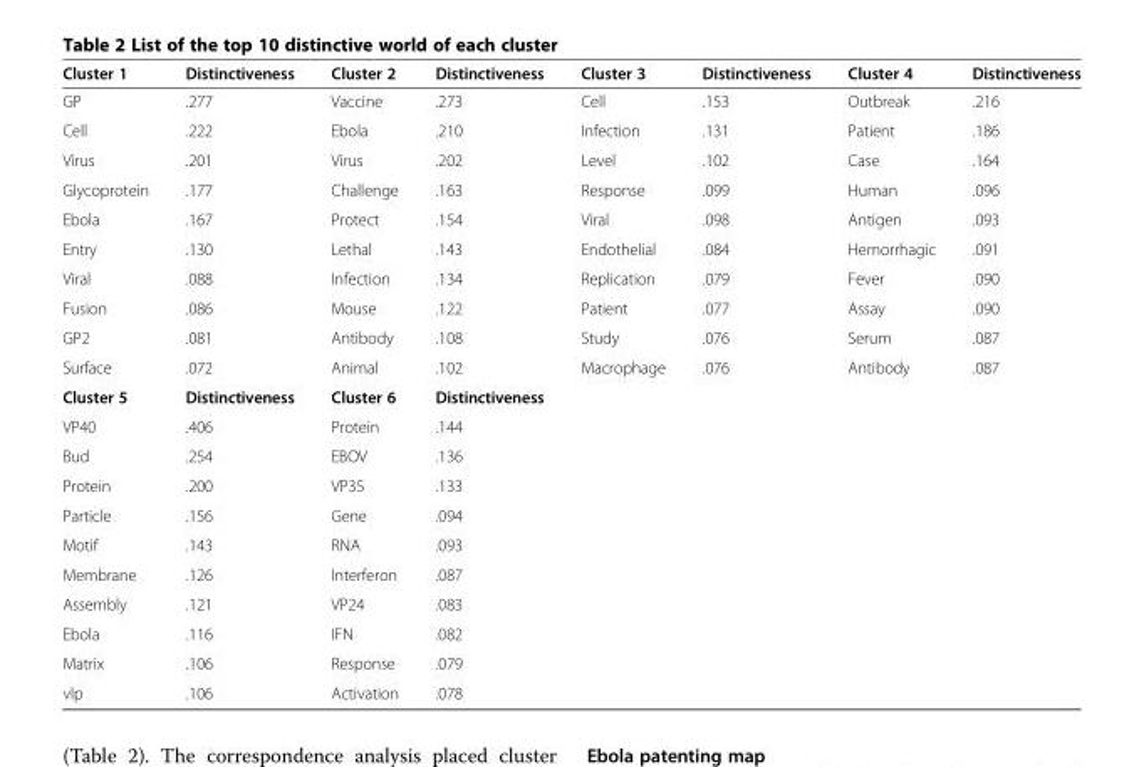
<table><thead><tr><td>Cluster 1</td><td>Distinctiveness</td><td>Cluster 2</td><td>Distinctiveness</td><td>Cluster 3</td><td>Distinctiveness</td><td>Cluster 4</td><td>Distinctiveness</td></tr></thead><tbody><tr><td>GP</td><td>.277</td><td>Vaccine</td><td>.273</td><td>Cell</td><td>.153</td><td>Outbreak</td><td>.216</td></tr><tr><td>Cell</td><td>.222</td><td>Ebola</td><td>.210</td><td>Infection</td><td>.131</td><td>Patient</td><td>.186</td></tr><tr><td>Virus</td><td>.201</td><td>Virus</td><td>.202</td><td>Level</td><td>.102</td><td>Case</td><td>.164</td></tr><tr><td>Glycoprotein</td><td>.177</td><td>Challenge</td><td>.163</td><td>Response</td><td>.099</td><td>Human</td><td>.096</td></tr><tr><td>Ebola</td><td>.167</td><td>Protect</td><td>.154</td><td>Viral</td><td>.098</td><td>Antigen</td><td>.093</td></tr><tr><td>Entry</td><td>.130</td><td>Lethal</td><td>.143</td><td>Endothelial</td><td>.084</td><td>Hemorrhagic</td><td>.091</td></tr><tr><td>Viral</td><td>.088</td><td>Infection</td><td>.134</td><td>Replication</td><td>.079</td><td>Fever</td><td>.090</td></tr><tr><td>Fusion</td><td>.086</td><td>Mouse</td><td>.122</td><td>Patient</td><td>.077</td><td>Assay</td><td>.090</td></tr><tr><td>GP2</td><td>.081</td><td>Antibody</td><td>.108</td><td>Study</td><td>.076</td><td>Serum</td><td>.087</td></tr><tr><td>Surface</td><td>.072</td><td>Animal</td><td>.102</td><td>Macrophage</td><td>.076</td><td>Antibody</td><td>.087</td></tr><tr><td>Cluster 5</td><td>Distinctiveness</td><td>Cluster 6</td><td>Distinctiveness</td><td></td><td></td><td></td><td></td></tr><tr><td>VP40</td><td>.406</td><td>Protein</td><td>.144</td><td></td><td></td><td></td><td></td></tr><tr><td>Bud</td><td>.254</td><td>EBOV</td><td>.136</td><td></td><td></td><td></td><td></td></tr><tr><td>Protein</td><td>.200</td><td>VP35</td><td>.133</td><td></td><td></td><td></td><td></td></tr><tr><td>Particle</td><td>.156</td><td>Gene</td><td>.094</td><td></td><td></td><td></td><td></td></tr><tr><td>Motif</td><td>.143</td><td>RNA</td><td>.093</td><td></td><td></td><td></td><td></td></tr><tr><td>Membrane</td><td>.126</td><td>Interferon</td><td>.087</td><td></td><td></td><td></td><td></td></tr><tr><td>Assembly</td><td>.121</td><td>VP24</td><td>.083</td><td></td><td></td><td></td><td></td></tr><tr><td>Ebola</td><td>.116</td><td>IFN</td><td>.082</td><td></td><td></td><td></td><td></td></tr><tr><td>Matrix</td><td>.106</td><td>Response</td><td>.079</td><td></td><td></td><td></td><td></td></tr><tr><td>vlp</td><td>.106</td><td>Activation</td><td>.078</td><td></td><td></td><td></td><td></td></tr></tbody></table>